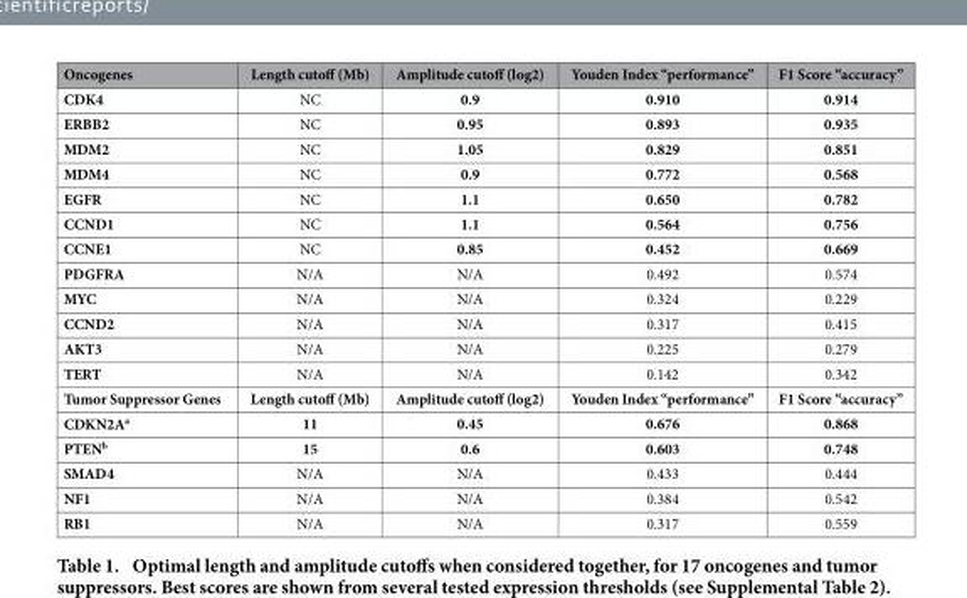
<table><thead><tr><td>Oncogenes</td><td>Length cutoff (Mb)</td><td>Amplitude cutoff (log2)</td><td>Youden Index “performance”</td><td>F1 Score “accuracy”</td></tr></thead><tbody><tr><td>CDK4</td><td>NC</td><td>0.9</td><td>0.910</td><td>0.914</td></tr><tr><td>ERBB2</td><td>NC</td><td>0.95</td><td>0.893</td><td>0.935</td></tr><tr><td>MDM2</td><td>NC</td><td>1.05</td><td>0.829</td><td>0.851</td></tr><tr><td>MDM4</td><td>NC</td><td>0.9</td><td>0.772</td><td>0.568</td></tr><tr><td>EGFR</td><td>NC</td><td>1.1</td><td>0.650</td><td>0.782</td></tr><tr><td>CCND1</td><td>NC</td><td>1.1</td><td>0.564</td><td>0.756</td></tr><tr><td>CCNE1</td><td>NC</td><td>0.85</td><td>0.452</td><td>0.669</td></tr><tr><td>PDGFRA</td><td>N/A</td><td>N/A</td><td>0.492</td><td>0.574</td></tr><tr><td>MYC</td><td>N/A</td><td>N/A</td><td>0.324</td><td>0.229</td></tr><tr><td>CCND2</td><td>N/A</td><td>N/A</td><td>0.317</td><td>0.415</td></tr><tr><td>AKT3</td><td>N/A</td><td>N/A</td><td>0.225</td><td>0.279</td></tr><tr><td>TERT</td><td>N/A</td><td>N/A</td><td>0.142</td><td>0.342</td></tr><tr><td>Tumor Suppressor Genes</td><td>Length cutoff (Mb)</td><td>Amplitude cutoff (log2)</td><td>Youden Index “performance”</td><td>F1 Score “accuracy”</td></tr><tr><td>CDKN2A<sup>a</sup></td><td>11</td><td>0.45</td><td>0.676</td><td>0.868</td></tr><tr><td>PTEN<sup>b</sup></td><td>15</td><td>0.6</td><td>0.603</td><td>0.748</td></tr><tr><td>SMAD4</td><td>N/A</td><td>N/A</td><td>0.433</td><td>0.444</td></tr><tr><td>NF1</td><td>N/A</td><td>N/A</td><td>0.384</td><td>0.542</td></tr><tr><td>RB1</td><td>N/A</td><td>N/A</td><td>0.317</td><td>0.559</td></tr></tbody></table>